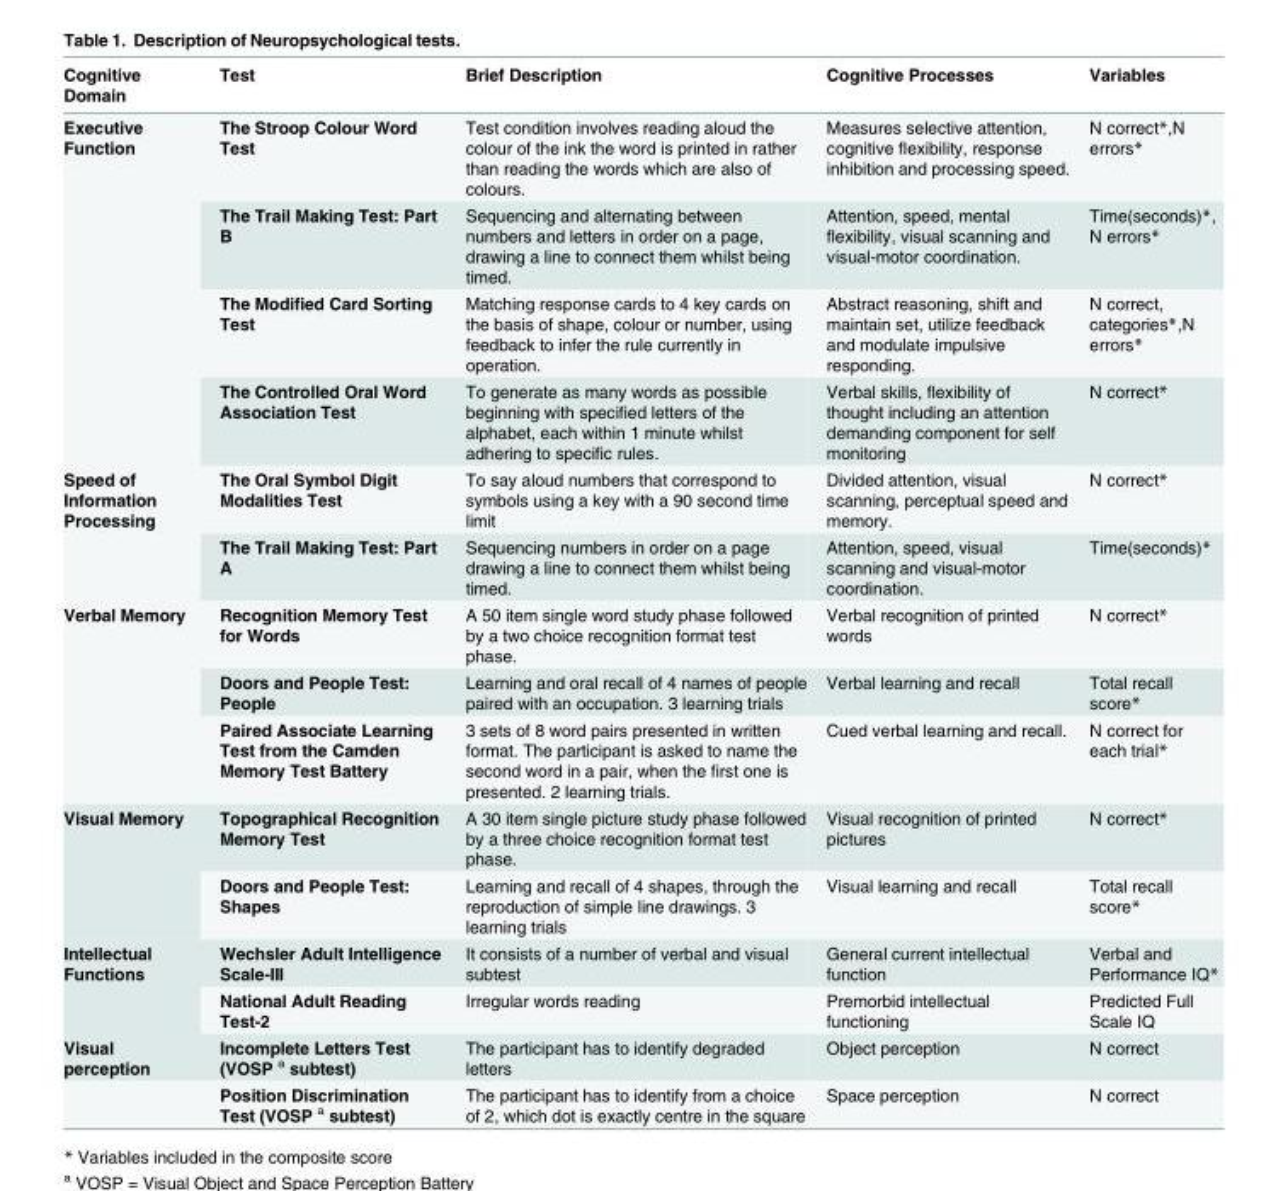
<table><thead><tr><td>Cognitive Domain</td><td>Test</td><td>Brief Description</td><td>Cognitive Processes</td><td>Variables</td></tr></thead><tbody><tr><td rowspan="4">Executive Function</td><td>The Stroop Colour Word Test</td><td>Test condition involves reading aloud the colour of the ink the word is printed in rather than reading the words which are also of colours.</td><td>Measures selective attention, cognitive flexibility, response inhibition and processing speed.</td><td>N correct*,N errors*</td></tr><tr><td>The Trail Making Test: Part B</td><td>Sequencing and alternating between numbers and letters in order on a page, drawing a line to connect them whilst being timed.</td><td>Attention, speed, mental flexibility, visual scanning and visual-motor coordination.</td><td>Time(seconds)*, N errors*</td></tr><tr><td>The Modified Card Sorting Test</td><td>Matching response cards to 4 key cards on the basis of shape, colour or number, using feedback to infer the rule currently in operation.</td><td>Abstract reasoning, shift and maintain set, utilize feedback and modulate impulsive responding.</td><td>N correct, categories*,N errors*</td></tr><tr><td>The Controlled Oral Word Association Test</td><td>To generate as many words as possible beginning with specified letters of the alphabet, each within 1 minute whilst adhering to specific rules.</td><td>Verbal skills, flexibility of thought including an attention demanding component for self monitoring</td><td>N correct*</td></tr><tr><td rowspan="2">Speed of Information Processing</td><td>The Oral Symbol Digit Modalities Test</td><td>To say aloud numbers that correspond to symbols using a key with a 90 second time limit</td><td>Divided attention, visual scanning, perceptual speed and memory.</td><td>N correct*</td></tr><tr><td>The Trail Making Test: Part A</td><td>Sequencing numbers in order on a page drawing a line to connect them whilst being timed.</td><td>Attention, speed, visual scanning and visual-motor coordination.</td><td>Time(seconds)*</td></tr><tr><td rowspan="3">Verbal Memory</td><td>Recognition Memory Test for Words</td><td>A 50 item single word study phase followed by a two choice recognition format test phase.</td><td>Verbal recognition of printed words</td><td>N correct*</td></tr><tr><td>Doors and People Test: People</td><td>Learning and oral recall of 4 names of people paired with an occupation. 3 learning trials</td><td>Verbal learning and recall</td><td>Total recall score*</td></tr><tr><td>Paired Associate Learning Test from the Camden Memory Test Battery</td><td>3 sets of 8 word pairs presented in written format. The participant is asked to name the second word in a pair, when the first one is presented. 2 learning trials.</td><td>Cued verbal learning and recall.</td><td>N correct for each trial*</td></tr><tr><td rowspan="2">Visual Memory</td><td>Topographical Recognition Memory Test</td><td>A 30 item single picture study phase followed by a three choice recognition format test phase.</td><td>Visual recognition of printed pictures</td><td>N correct*</td></tr><tr><td>Doors and People Test: Shapes</td><td>Learning and recall of 4 shapes, through the reproduction of simple line drawings. 3 learning trials</td><td>Visual learning and recall</td><td>Total recall score*</td></tr><tr><td rowspan="2">Intellectual Functions</td><td>Wechsler Adult Intelligence Scale-III</td><td>It consists of a number of verbal and visual subtest</td><td>General current intellectual function</td><td>Verbal and Performance IQ*</td></tr><tr><td>National Adult Reading Test-2</td><td>Irregular words reading</td><td>Premorbid intellectual functioning</td><td>Predicted Full Scale IQ</td></tr><tr><td rowspan="2">Visual perception</td><td>Incomplete Letters Test (VOSP <sup>a</sup> subtest)</td><td>The participant has to identify degraded letters</td><td>Object perception</td><td>N correct</td></tr><tr><td>Position Discrimination Test (VOSP <sup>a</sup> subtest)</td><td>The participant has to identify from a choice of 2, which dot is exactly centre in the square</td><td>Space perception</td><td>N correct</td></tr></tbody></table>